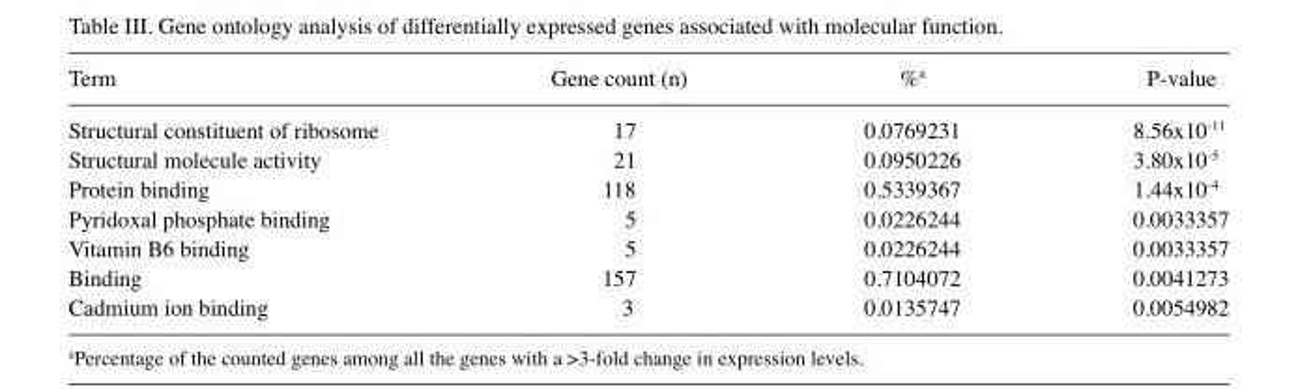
<table><thead><tr><td>Term</td><td>Gene count (n)</td><td>%<sup>a</sup></td><td>P-value</td></tr></thead><tbody><tr><td>Structural constituent of ribosome</td><td>17</td><td>0.0769231</td><td>8.56x10-11</td></tr><tr><td>Structural molecule activity</td><td>21</td><td>0.0950226</td><td>3.80x10-5</td></tr><tr><td>Protein binding</td><td>118</td><td>0.5339367</td><td>1.44x10-4</td></tr><tr><td>Pyridoxal phosphate binding</td><td>5</td><td>0.0226244</td><td>0.0033357</td></tr><tr><td>Vitamin B6 binding</td><td>5</td><td>0.0226244</td><td>0.0033357</td></tr><tr><td>Binding</td><td>157</td><td>0.7104072</td><td>0.0041273</td></tr><tr><td>Cadmium ion binding</td><td>3</td><td>0.0135747</td><td>0.0054982</td></tr></tbody></table>